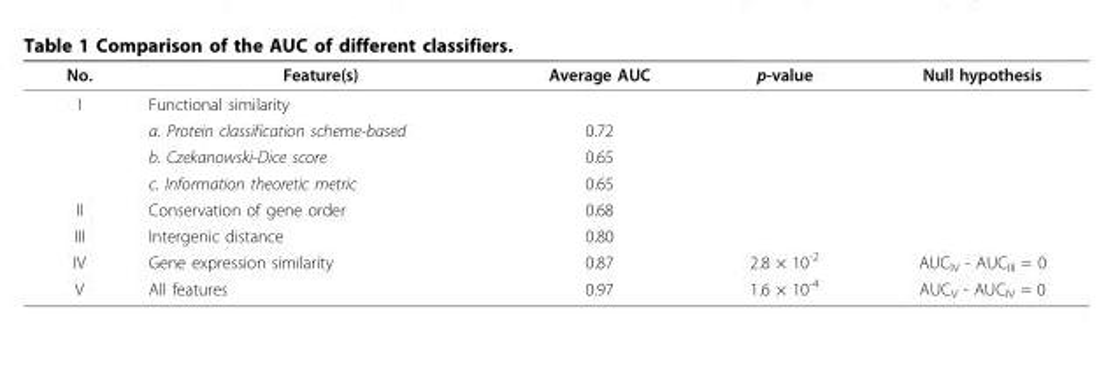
<table><thead><tr><td>No.</td><td>Feature(s)</td><td>Average AUC</td><td>p-value</td><td>Null hypothesis</td></tr></thead><tbody><tr><td rowspan="4">I</td><td>Functional similarity</td><td></td><td></td><td></td></tr><tr><td>a. Protein classification scheme-based</td><td>0.72</td><td></td><td></td></tr><tr><td>b. Czekanowski-Dice score</td><td>0.65</td><td></td><td></td></tr><tr><td>c. Information theoretic metric</td><td>0.65</td><td></td><td></td></tr><tr><td>II</td><td>Conservation of gene order</td><td>0.68</td><td></td><td></td></tr><tr><td>III</td><td>Intergenic distance</td><td>0.80</td><td></td><td></td></tr><tr><td>IV</td><td>Gene expression similarity</td><td>0.87</td><td>2.8 × 10<sup>-2</sup></td><td>AUC<sub>IV</sub> - AUC<sub>III</sub> = 0</td></tr><tr><td>V</td><td>All features</td><td>0.97</td><td>1.6 × 10<sup>-4</sup></td><td>AUC<sub>V</sub> - AUC<sub>IV</sub> = 0</td></tr></tbody></table>